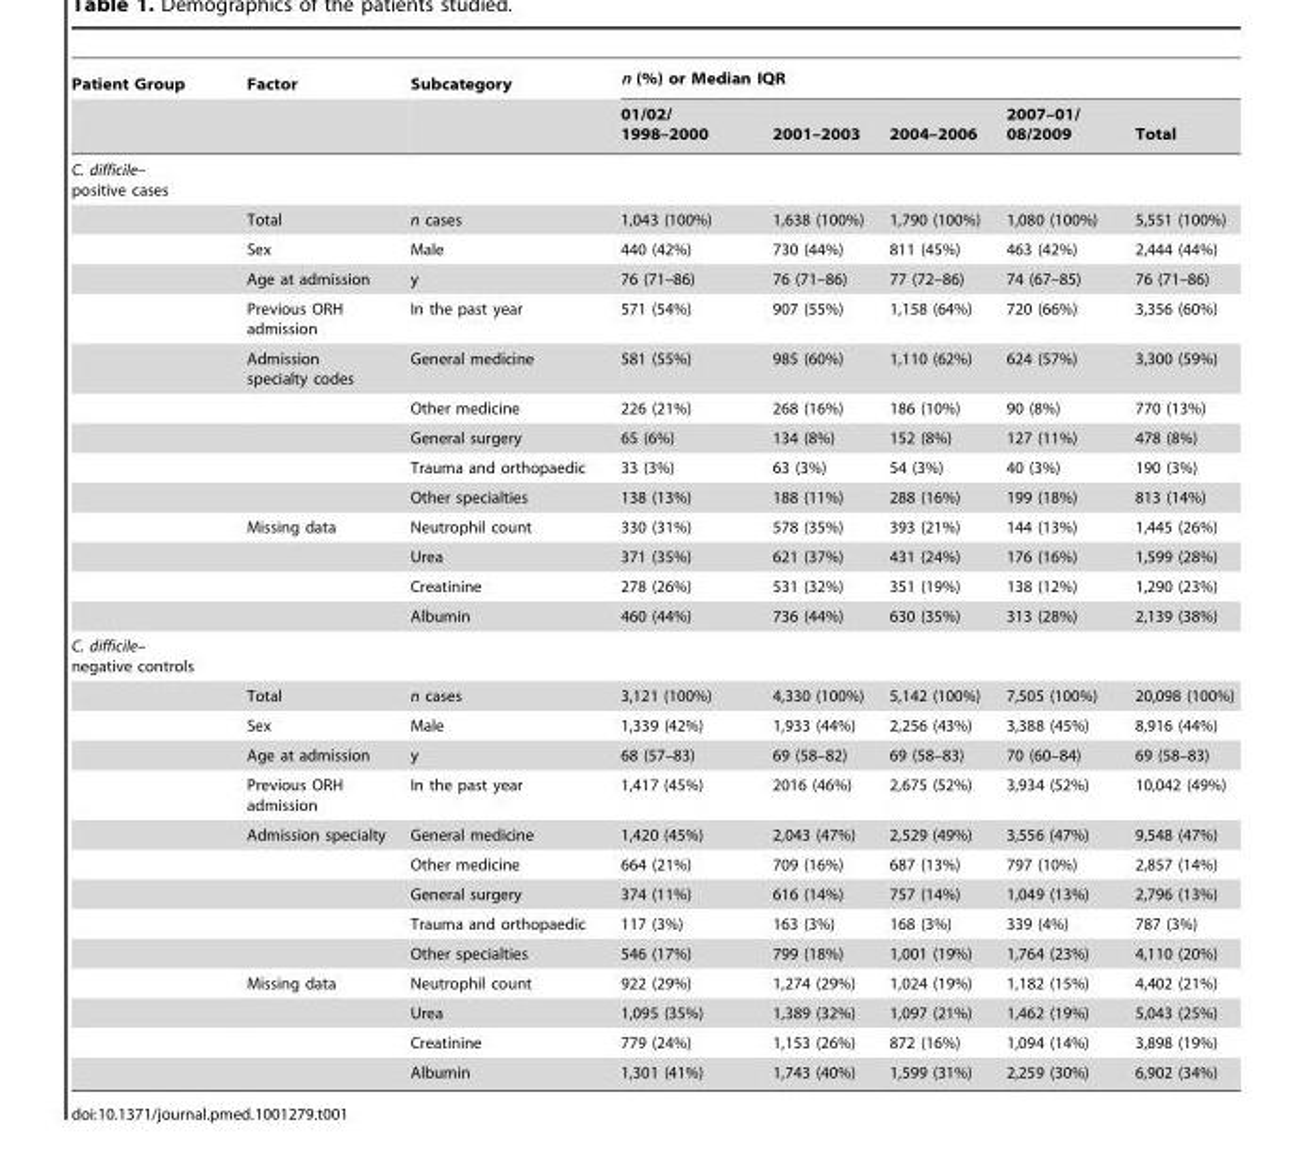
<table><thead><tr><td rowspan="2">Patient Group</td><td rowspan="2">Factor</td><td rowspan="2">Subcategory</td><td colspan="5">n (%) or Median IQR</td></tr><tr><td>01/02/ 1998–2000</td><td>2001–2003</td><td>2004–2006</td><td>2007–01/ 08/2009</td><td>Total</td></tr></thead><tbody><tr><td colspan="8">C. difficile– positive cases</td></tr><tr><td></td><td>Total</td><td>n cases</td><td>1,043 (100%)</td><td>1,638 (100%)</td><td>1,790 (100%)</td><td>1,080 (100%)</td><td>5,551 (100%)</td></tr><tr><td></td><td>Sex</td><td>Male</td><td>440 (42%)</td><td>730 (44%)</td><td>811 (45%)</td><td>463 (42%)</td><td>2,444 (44%)</td></tr><tr><td></td><td>Age at admission</td><td>y</td><td>76 (71–86)</td><td>76 (71–86)</td><td>77 (72–86)</td><td>74 (67–85)</td><td>76 (71–86)</td></tr><tr><td></td><td>Previous ORH admission</td><td>In the past year</td><td>571 (54%)</td><td>907 (55%)</td><td>1,158 (64%)</td><td>720 (66%)</td><td>3,356 (60%)</td></tr><tr><td></td><td>Admission specialty codes</td><td>General medicine</td><td>581 (55%)</td><td>985 (60%)</td><td>1,110 (62%)</td><td>624 (57%)</td><td>3,300 (59%)</td></tr><tr><td></td><td></td><td>Other medicine</td><td>226 (21%)</td><td>268 (16%)</td><td>186 (10%)</td><td>90 (8%)</td><td>770 (13%)</td></tr><tr><td></td><td></td><td>General surgery</td><td>65 (6%)</td><td>134 (8%)</td><td>152 (8%)</td><td>127 (11%)</td><td>478 (8%)</td></tr><tr><td></td><td></td><td>Trauma and orthopaedic</td><td>33 (3%)</td><td>63 (3%)</td><td>54 (3%)</td><td>40 (3%)</td><td>190 (3%)</td></tr><tr><td></td><td></td><td>Other specialties</td><td>138 (13%)</td><td>188 (11%)</td><td>288 (16%)</td><td>199 (18%)</td><td>813 (14%)</td></tr><tr><td></td><td>Missing data</td><td>Neutrophil count</td><td>330 (31%)</td><td>578 (35%)</td><td>393 (21%)</td><td>144 (13%)</td><td>1,445 (26%)</td></tr><tr><td></td><td></td><td>Urea</td><td>371 (35%)</td><td>621 (37%)</td><td>431 (24%)</td><td>176 (16%)</td><td>1,599 (28%)</td></tr><tr><td></td><td></td><td>Creatinine</td><td>278 (26%)</td><td>531 (32%)</td><td>351 (19%)</td><td>138 (12%)</td><td>1,290 (23%)</td></tr><tr><td></td><td></td><td>Albumin</td><td>460 (44%)</td><td>736 (44%)</td><td>630 (35%)</td><td>313 (28%)</td><td>2,139 (38%)</td></tr><tr><td colspan="8">C. difficile– negative controls</td></tr><tr><td></td><td>Total</td><td>n cases</td><td>3,121 (100%)</td><td>4,330 (100%)</td><td>5,142 (100%)</td><td>7,505 (100%)</td><td>20,098 (100%)</td></tr><tr><td></td><td>Sex</td><td>Male</td><td>1,339 (42%)</td><td>1,933 (44%)</td><td>2,256 (43%)</td><td>3,388 (45%)</td><td>8,916 (44%)</td></tr><tr><td></td><td>Age at admission</td><td>y</td><td>68 (57–83)</td><td>69 (58–82)</td><td>69 (58–83)</td><td>70 (60–84)</td><td>69 (58–83)</td></tr><tr><td></td><td>Previous ORH admission</td><td>In the past year</td><td>1,417 (45%)</td><td>2016 (46%)</td><td>2,675 (52%)</td><td>3,934 (52%)</td><td>10,042 (49%)</td></tr><tr><td></td><td>Admission specialty</td><td>General medicine</td><td>1,420 (45%)</td><td>2,043 (47%)</td><td>2,529 (49%)</td><td>3,556 (47%)</td><td>9,548 (47%)</td></tr><tr><td></td><td></td><td>Other medicine</td><td>664 (21%)</td><td>709 (16%)</td><td>687 (13%)</td><td>797 (10%)</td><td>2,857 (14%)</td></tr><tr><td></td><td></td><td>General surgery</td><td>374 (11%)</td><td>616 (14%)</td><td>757 (14%)</td><td>1,049 (13%)</td><td>2,796 (13%)</td></tr><tr><td></td><td></td><td>Trauma and orthopaedic</td><td>117 (3%)</td><td>163 (3%)</td><td>168 (3%)</td><td>339 (4%)</td><td>787 (3%)</td></tr><tr><td></td><td></td><td>Other specialties</td><td>546 (17%)</td><td>799 (18%)</td><td>1,001 (19%)</td><td>1,764 (23%)</td><td>4,110 (20%)</td></tr><tr><td></td><td>Missing data</td><td>Neutrophil count</td><td>922 (29%)</td><td>1,274 (29%)</td><td>1,024 (19%)</td><td>1,182 (15%)</td><td>4,402 (21%)</td></tr><tr><td></td><td></td><td>Urea</td><td>1,095 (35%)</td><td>1,389 (32%)</td><td>1,097 (21%)</td><td>1,462 (19%)</td><td>5,043 (25%)</td></tr><tr><td></td><td></td><td>Creatinine</td><td>779 (24%)</td><td>1,153 (26%)</td><td>872 (16%)</td><td>1,094 (14%)</td><td>3,898 (19%)</td></tr><tr><td></td><td></td><td>Albumin</td><td>1,301 (41%)</td><td>1,743 (40%)</td><td>1,599 (31%)</td><td>2,259 (30%)</td><td>6,902 (34%)</td></tr></tbody></table>